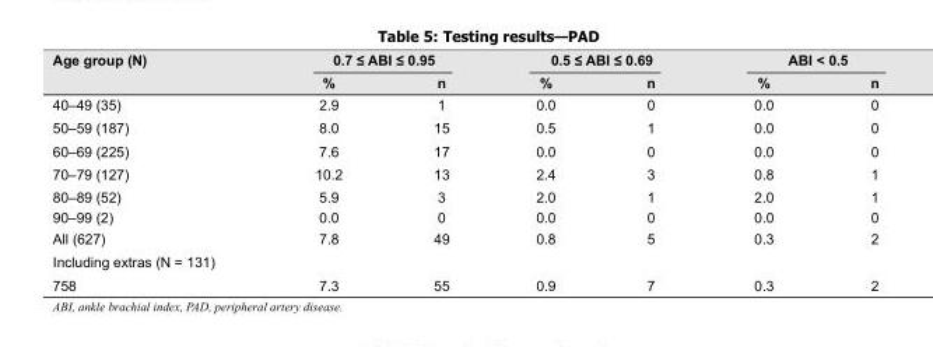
<table><thead><tr><td rowspan="2">Age group (N)</td><td colspan="2">0.7 ≤ ABI ≤ 0.95</td><td colspan="2">0.5 ≤ ABI ≤ 0.69</td><td colspan="2">ABI &lt; 0.5</td></tr><tr><td>%</td><td>n</td><td>%</td><td>n</td><td>%</td><td>n</td></tr></thead><tbody><tr><td>40–49 (35)</td><td>2.9</td><td>1</td><td>0.0</td><td>0</td><td>0.0</td><td>0</td></tr><tr><td>50–59 (187)</td><td>8.0</td><td>15</td><td>0.5</td><td>1</td><td>0.0</td><td>0</td></tr><tr><td>60–69 (225)</td><td>7.6</td><td>17</td><td>0.0</td><td>0</td><td>0.0</td><td>0</td></tr><tr><td>70–79 (127)</td><td>10.2</td><td>13</td><td>2.4</td><td>3</td><td>0.8</td><td>1</td></tr><tr><td>80–89 (52)</td><td>5.9</td><td>3</td><td>2.0</td><td>1</td><td>2.0</td><td>1</td></tr><tr><td>90–99 (2)</td><td>0.0</td><td>0</td><td>0.0</td><td>0</td><td>0.0</td><td>0</td></tr><tr><td>All (627)</td><td>7.8</td><td>49</td><td>0.8</td><td>5</td><td>0.3</td><td>2</td></tr><tr><td colspan="7">Including extras (N = 131)</td></tr><tr><td>758</td><td>7.3</td><td>55</td><td>0.9</td><td>7</td><td>0.3</td><td>2</td></tr></tbody></table>